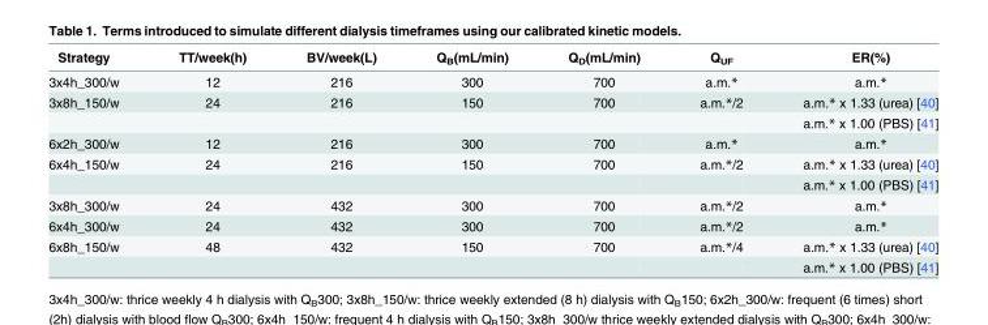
<table><thead><tr><td>Strategy</td><td>TT/week(h)</td><td>BV/week(L)</td><td>Q<sub>B</sub>(mL/min)</td><td>Q<sub>D</sub>(mL/min)</td><td>Q<sub>UF</sub></td><td>ER(%)</td></tr></thead><tbody><tr><td>3x4h_300/w</td><td>12</td><td>216</td><td>300</td><td>700</td><td>a.m.*</td><td>a.m.*</td></tr><tr><td rowspan="2">3x8h_150/w</td><td>24</td><td>216</td><td>150</td><td>700</td><td>a.m.*/2</td><td>a.m.* x 1.33 (urea) [40]</td></tr><tr><td></td><td></td><td></td><td></td><td></td><td>a.m.* x 1.00 (PBS) [41]</td></tr><tr><td>6x2h_300/w</td><td>12</td><td>216</td><td>300</td><td>700</td><td>a.m.*</td><td>a.m.*</td></tr><tr><td rowspan="2">6x4h_150/w</td><td>24</td><td>216</td><td>150</td><td>700</td><td>a.m.*/2</td><td>a.m.* x 1.33 (urea) [40]</td></tr><tr><td></td><td></td><td></td><td></td><td></td><td>a.m.* x 1.00 (PBS) [41]</td></tr><tr><td>3x8h_300/w</td><td>24</td><td>432</td><td>300</td><td>700</td><td>a.m.*/2</td><td>a.m.*</td></tr><tr><td>6x4h_300/w</td><td>24</td><td>432</td><td>300</td><td>700</td><td>a.m.*/2</td><td>a.m.*</td></tr><tr><td rowspan="2">6x8h_150/w</td><td>48</td><td>432</td><td>150</td><td>700</td><td>a.m.*/4</td><td>a.m.* x 1.33 (urea) [40]</td></tr><tr><td></td><td></td><td></td><td></td><td></td><td>a.m.* x 1.00 (PBS) [41]</td></tr></tbody></table>